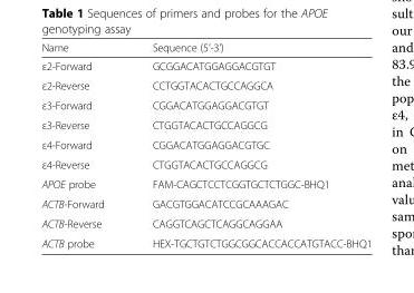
<table><thead><tr><td>Name</td><td>Sequence (5’-3’)</td></tr></thead><tbody><tr><td>ε2-Forward</td><td>GCGGACATGGAGGACGTGT</td></tr><tr><td>ε2-Reverse</td><td>CCTGGTACACTGCCAGGCA</td></tr><tr><td>ε3-Forward</td><td>CGGACATGGAGGACGTGT</td></tr><tr><td>ε3-Reverse</td><td>CTGGTACACTGCCAGGCG</td></tr><tr><td>ε4-Forward</td><td>CGGACATGGAGGACGTGC</td></tr><tr><td>ε4-Reverse</td><td>CTGGTACACTGCCAGGCG</td></tr><tr><td>APOE probe</td><td>FAM-CAGCTCCTCGGTGCTCTGGC-BHQ1</td></tr><tr><td>ACTB-Forward</td><td>GACGTGGACATCCGCAAAGAC</td></tr><tr><td>ACTB-Reverse</td><td>CAGGTCAGCTCAGGCAGGAA</td></tr><tr><td>ACTB probe</td><td>HEX-TGCTGTCTGGCGGCACCACCATGTACC-BHQ1</td></tr></tbody></table>